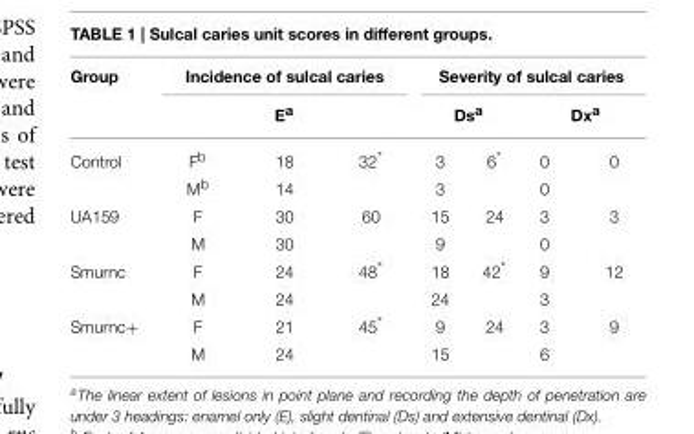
<table><thead><tr><td rowspan="3">Group Control</td><td rowspan="2" colspan="3">Incidence of sulcal caries E<sup>a</sup></td><td colspan="4">Severity of sulcal caries</td></tr><tr><td colspan="2">Ds<sup>a</sup></td><td colspan="2">Dx<sup>a</sup></td></tr><tr><td>F<sup>b</sup></td><td>18</td><td>32*</td><td>3</td><td>6*</td><td>0</td><td>0</td></tr></thead><tbody><tr><td></td><td>M<sup>b</sup></td><td>14</td><td></td><td>3</td><td></td><td>0</td><td></td></tr><tr><td rowspan="2">UA159</td><td>F</td><td>30</td><td>60</td><td>15</td><td>24</td><td>3</td><td>3</td></tr><tr><td>M</td><td>30</td><td></td><td>9</td><td></td><td>0</td><td></td></tr><tr><td rowspan="2">Smurnc</td><td>F</td><td>24</td><td>48*</td><td>18</td><td>42*</td><td>9</td><td>12</td></tr><tr><td>M</td><td>24</td><td></td><td>24</td><td></td><td>3</td><td></td></tr><tr><td rowspan="2">Smurnc+</td><td>F</td><td>21</td><td>45*</td><td>9</td><td>24</td><td>3</td><td>9</td></tr><tr><td>M</td><td>24</td><td></td><td>15</td><td></td><td>6</td><td></td></tr></tbody></table>